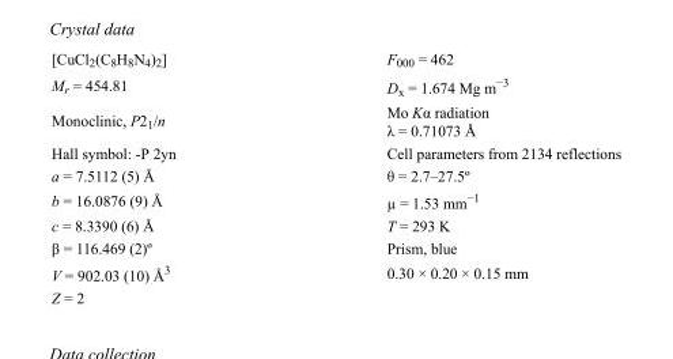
<table><tbody><tr><td>[CuCl<sub>2</sub>(C<sub>8</sub>H<sub>8</sub>N<sub>4</sub>)<sub>2</sub>]</td><td>F000 = 462</td></tr><tr><td>M<sub>r</sub> = 454.81</td><td>D<sub>x</sub> = 1.674 Mg m<sup>−3</sup></td></tr><tr><td>Monoclinic, P2<sub>1</sub>/n</td><td>Mo Kα radiation λ = 0.71073 Å</td></tr><tr><td>Hall symbol: -P 2yn</td><td>Cell parameters from 2134 reflections</td></tr><tr><td>a = 7.5112 (5) Å</td><td>θ = 2.7–27.5º</td></tr><tr><td>b = 16.0876 (9) Å</td><td>µ = 1.53 mm<sup>−1</sup></td></tr><tr><td>c = 8.3390 (6) Å</td><td>T = 293 K</td></tr><tr><td>β = 116.469 (2)º</td><td>Prism, blue</td></tr><tr><td>V = 902.03 (10) Å<sup>3</sup></td><td>0.30 × 0.20 × 0.15 mm</td></tr><tr><td>Z = 2</td><td></td></tr></tbody></table>